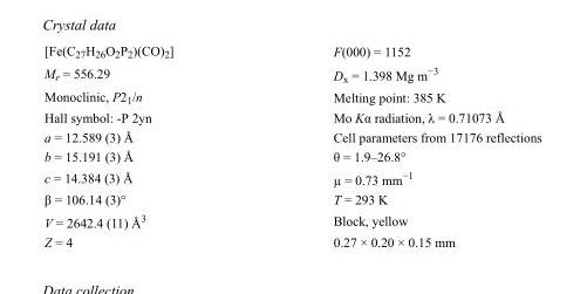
<table><tbody><tr><td>[Fe(C<sub>27</sub>H<sub>26</sub>O<sub>2</sub>P<sub>2</sub>)(CO)<sub>2</sub>]</td><td>F(000) = 1152</td></tr><tr><td>M<sub>r</sub> = 556.29</td><td>D<sub>x</sub> = 1.398 Mg m<sup>−3</sup></td></tr><tr><td>Monoclinic, P2<sub>1</sub>/n</td><td>Melting point: 385 K</td></tr><tr><td>Hall symbol: -P 2yn</td><td>Mo Kα radiation, λ = 0.71073 Å</td></tr><tr><td>a = 12.589 (3) Å</td><td>Cell parameters from 17176 reflections</td></tr><tr><td>b = 15.191 (3) Å</td><td>θ = 1.9–26.8°</td></tr><tr><td>c = 14.384 (3) Å</td><td>µ = 0.73 mm<sup>−1</sup></td></tr><tr><td>β = 106.14 (3)°</td><td>T = 293 K</td></tr><tr><td>V = 2642.4 (11) Å<sup>3</sup></td><td>Block, yellow</td></tr><tr><td>Z = 4</td><td>0.27 × 0.20 × 0.15 mm</td></tr></tbody></table>